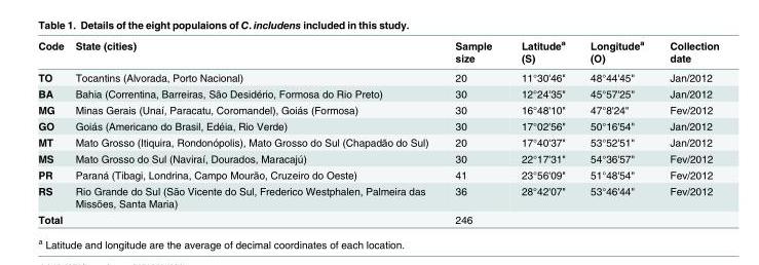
<table><thead><tr><td>Code</td><td>State (cities)</td><td>Sample size</td><td>Latitude<sup>a</sup> (S)</td><td>Longitude<sup>a</sup> (O)</td><td>Collection date</td></tr></thead><tbody><tr><td>TO</td><td>Tocantins (Alvorada, Porto Nacional)</td><td>20</td><td>11°30&#x27;46&quot;</td><td>48°44&#x27;45&quot;</td><td>Jan/2012</td></tr><tr><td>BA</td><td>Bahia (Correntina, Barreiras, São Desidério, Formosa do Rio Preto)</td><td>30</td><td>12°24&#x27;35&quot;</td><td>45°57&#x27;25&quot;</td><td>Jan/2012</td></tr><tr><td>MG</td><td>Minas Gerais (Unaí, Paracatu, Coromandel), Goiás (Formosa)</td><td>30</td><td>16°48&#x27;10&quot;</td><td>47°8&#x27;24&quot;</td><td>Fev/2012</td></tr><tr><td>GO</td><td>Goiás (Americano do Brasil, Edéia, Rio Verde)</td><td>30</td><td>17°02&#x27;56&quot;</td><td>50°16&#x27;54&quot;</td><td>Jan/2012</td></tr><tr><td>MT</td><td>Mato Grosso (Itiquira, Rondonópolis), Mato Grosso do Sul (Chapadão do Sul)</td><td>20</td><td>17°40&#x27;37&quot;</td><td>53°52&#x27;51&quot;</td><td>Jan/2012</td></tr><tr><td>MS</td><td>Mato Grosso do Sul (Naviraí, Dourados, Maracajú)</td><td>30</td><td>22°17&#x27;31&quot;</td><td>54°36&#x27;57&quot;</td><td>Fev/2012</td></tr><tr><td>PR</td><td>Paraná (Tibagi, Londrina, Campo Mourão, Cruzeiro do Oeste)</td><td>41</td><td>23°56&#x27;09&quot;</td><td>51°48&#x27;54&quot;</td><td>Fev/2012</td></tr><tr><td>RS</td><td>Rio Grande do Sul (São Vicente do Sul, Frederico Westphalen, Palmeira das Missões, Santa Maria)</td><td>36</td><td>28°42&#x27;07&quot;</td><td>53°46&#x27;44&quot;</td><td>Fev/2012</td></tr><tr><td>Total</td><td></td><td>246</td><td></td><td></td><td></td></tr></tbody></table>